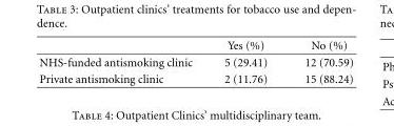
<table><thead><tr><td></td><td>Yes (%)</td><td>No (%)</td></tr></thead><tbody><tr><td>NHS-funded antismoking clinic</td><td>5 (29.41)</td><td>12 (70.59)</td></tr><tr><td>Private antismoking clinic</td><td>2 (11.76)</td><td>15 (88.24)</td></tr></tbody></table>